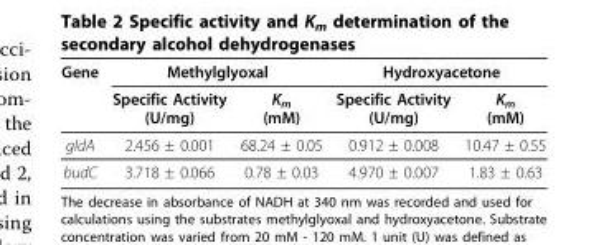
<table><thead><tr><td rowspan="2">Gene</td><td colspan="2">Methylglyoxal</td><td colspan="2">Hydroxyacetone</td></tr><tr><td>Specific Activity (U/mg)</td><td>K<sub>m</sub> (mM)</td><td>Specific Activity (U/mg)</td><td>K<sub>m</sub> (mM)</td></tr></thead><tbody><tr><td>gldA</td><td>2.456 ± 0.001</td><td>68.24 ± 0.05</td><td>0.912 ± 0.008</td><td>10.47 ± 0.55</td></tr><tr><td>budC</td><td>3.718 ± 0.066</td><td>0.78 ± 0.03</td><td>4.970 ± 0.007</td><td>1.83 ± 0.63</td></tr></tbody></table>